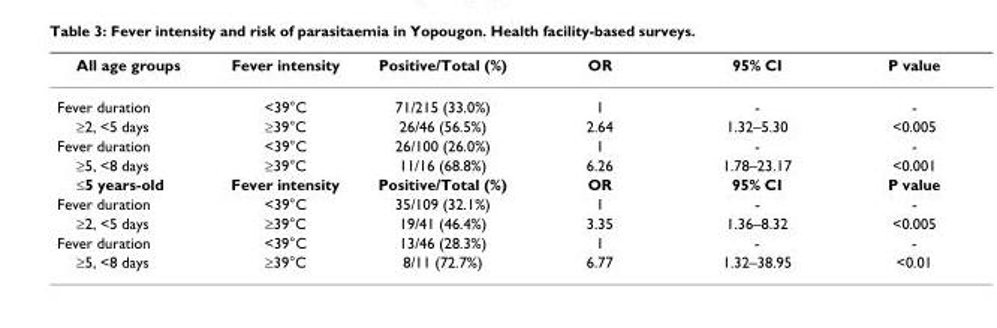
<table><thead><tr><td>All age groups</td><td>Fever intensity</td><td>Positive/Total (%)</td><td>OR</td><td>95% CI</td><td>P value</td></tr></thead><tbody><tr><td>Fever duration</td><td>&lt;39°C</td><td>71/215 (33.0%)</td><td>1</td><td>-</td><td>-</td></tr><tr><td>≥2, &lt;5 days</td><td>≥39°C</td><td>26/46 (56.5%)</td><td>2.64</td><td>1.32–5.30</td><td>&lt;0.005</td></tr><tr><td>Fever duration</td><td>&lt;39°C</td><td>26/100 (26.0%)</td><td>1</td><td>-</td><td>-</td></tr><tr><td>≥5, &lt;8 days</td><td>≥39°C</td><td>11/16 (68.8%)</td><td>6.26</td><td>1.78–23.17</td><td>&lt;0.001</td></tr><tr><td>≤5 years-old</td><td>Fever intensity</td><td>Positive/Total (%)</td><td>OR</td><td>95% CI</td><td>P value</td></tr><tr><td>Fever duration</td><td>&lt;39°C</td><td>35/109 (32.1%)</td><td>1</td><td>-</td><td>-</td></tr><tr><td>≥2, &lt;5 days</td><td>≥39°C</td><td>19/41 (46.4%)</td><td>3.35</td><td>1.36–8.32</td><td>&lt;0.005</td></tr><tr><td>Fever duration</td><td>&lt;39°C</td><td>13/46 (28.3%)</td><td>1</td><td>-</td><td>-</td></tr><tr><td>≥5, &lt;8 days</td><td>≥39°C</td><td>8/11 (72.7%)</td><td>6.77</td><td>1.32–38.95</td><td>&lt;0.01</td></tr></tbody></table>